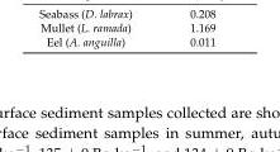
<table><thead><tr><td>Fish Species</td><td>Dose (µSv·y<sup>−1</sup>)</td></tr></thead><tbody><tr><td>Seabass (D. labrax)</td><td>0.208</td></tr><tr><td>Mullet (L. ramada)</td><td>1.169</td></tr><tr><td>Eel (A. anguilla)</td><td>0.011</td></tr></tbody></table>